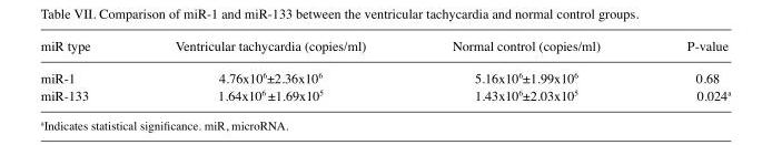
<table><thead><tr><td>miR type</td><td>Ventricular tachycardia (copies/ml)</td><td>Normal control (copies/ml)</td><td>P-value</td></tr></thead><tbody><tr><td>miR-1</td><td>4.76x106±2.36x106</td><td>5.16x106±1.99x106</td><td>0.68</td></tr><tr><td>miR-133</td><td>1.64x106 ±1.69x105</td><td>1.43x106±2.03x105</td><td>0.024<sup>a</sup></td></tr></tbody></table>